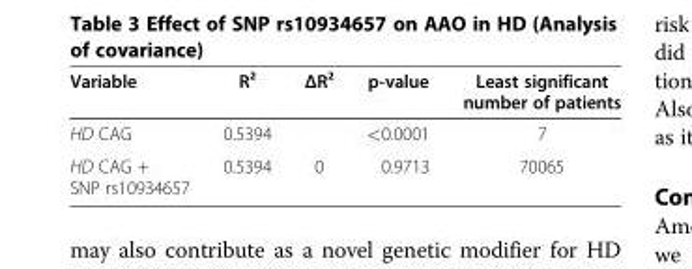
<table><thead><tr><td>Variable</td><td>R²</td><td>ΔR²</td><td>p-value</td><td>Least significant number of patients</td></tr></thead><tbody><tr><td>HD CAG</td><td>0.5394</td><td></td><td>&lt;0.0001</td><td>7</td></tr><tr><td>HD CAG + SNP rs10934657</td><td>0.5394</td><td>0</td><td>0.9713</td><td>70065</td></tr></tbody></table>